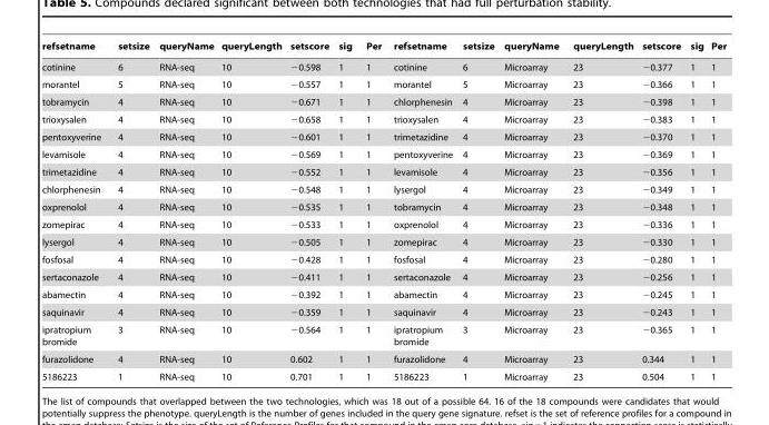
<table><thead><tr><td>refsetname</td><td>setsize</td><td>queryName</td><td>queryLength</td><td>setscore</td><td>sig</td><td>Per</td><td>refsetname</td><td>setsize</td><td>queryName</td><td>queryLength</td><td>setscore</td><td>sig</td><td>Per</td></tr></thead><tbody><tr><td>cotinine</td><td>6</td><td>RNA-seq</td><td>10</td><td>−0.598</td><td>1</td><td>1</td><td>cotinine</td><td>6</td><td>Microarray</td><td>23</td><td>−0.377</td><td>1</td><td>1</td></tr><tr><td>morantel</td><td>5</td><td>RNA-seq</td><td>10</td><td>−0.557</td><td>1</td><td>1</td><td>morantel</td><td>5</td><td>Microarray</td><td>23</td><td>−0.366</td><td>1</td><td>1</td></tr><tr><td>tobramycin</td><td>4</td><td>RNA-seq</td><td>10</td><td>−0.671</td><td>1</td><td>1</td><td>chlorphenesin</td><td>4</td><td>Microarray</td><td>23</td><td>−0.398</td><td>1</td><td>1</td></tr><tr><td>trioxysalen</td><td>4</td><td>RNA-seq</td><td>10</td><td>−0.658</td><td>1</td><td>1</td><td>trioxysalen</td><td>4</td><td>Microarray</td><td>23</td><td>−0.383</td><td>1</td><td>1</td></tr><tr><td>pentoxyverine</td><td>4</td><td>RNA-seq</td><td>10</td><td>−0.601</td><td>1</td><td>1</td><td>trimetazidine</td><td>4</td><td>Microarray</td><td>23</td><td>−0.370</td><td>1</td><td>1</td></tr><tr><td>levamisole</td><td>4</td><td>RNA-seq</td><td>10</td><td>−0.569</td><td>1</td><td>1</td><td>pentoxyverine</td><td>4</td><td>Microarray</td><td>23</td><td>−0.369</td><td>1</td><td>1</td></tr><tr><td>trimetazidine</td><td>4</td><td>RNA-seq</td><td>10</td><td>−0.552</td><td>1</td><td>1</td><td>levamisole</td><td>4</td><td>Microarray</td><td>23</td><td>−0.356</td><td>1</td><td>1</td></tr><tr><td>chlorphenesin</td><td>4</td><td>RNA-seq</td><td>10</td><td>−0.548</td><td>1</td><td>1</td><td>lysergol</td><td>4</td><td>Microarray</td><td>23</td><td>−0.349</td><td>1</td><td>1</td></tr><tr><td>oxprenolol</td><td>4</td><td>RNA-seq</td><td>10</td><td>−0.535</td><td>1</td><td>1</td><td>tobramycin</td><td>4</td><td>Microarray</td><td>23</td><td>−0.348</td><td>1</td><td>1</td></tr><tr><td>zomepirac</td><td>4</td><td>RNA-seq</td><td>10</td><td>−0.533</td><td>1</td><td>1</td><td>oxprenolol</td><td>4</td><td>Microarray</td><td>23</td><td>−0.336</td><td>1</td><td>1</td></tr><tr><td>lysergol</td><td>4</td><td>RNA-seq</td><td>10</td><td>−0.505</td><td>1</td><td>1</td><td>zomepirac</td><td>4</td><td>Microarray</td><td>23</td><td>−0.330</td><td>1</td><td>1</td></tr><tr><td>fosfosal</td><td>4</td><td>RNA-seq</td><td>10</td><td>−0.428</td><td>1</td><td>1</td><td>fosfosal</td><td>4</td><td>Microarray</td><td>23</td><td>−0.280</td><td>1</td><td>1</td></tr><tr><td>sertaconazole</td><td>4</td><td>RNA-seq</td><td>10</td><td>−0.411</td><td>1</td><td>1</td><td>sertaconazole</td><td>4</td><td>Microarray</td><td>23</td><td>−0.256</td><td>1</td><td>1</td></tr><tr><td>abamectin</td><td>4</td><td>RNA-seq</td><td>10</td><td>−0.392</td><td>1</td><td>1</td><td>abamectin</td><td>4</td><td>Microarray</td><td>23</td><td>−0.245</td><td>1</td><td>1</td></tr><tr><td>saquinavir</td><td>4</td><td>RNA-seq</td><td>10</td><td>−0.359</td><td>1</td><td>1</td><td>saquinavir</td><td>4</td><td>Microarray</td><td>23</td><td>−0.243</td><td>1</td><td>1</td></tr><tr><td>ipratropium bromide</td><td>3</td><td>RNA-seq</td><td>10</td><td>−0.564</td><td>1</td><td>1</td><td>ipratropium bromide</td><td>3</td><td>Microarray</td><td>23</td><td>−0.365</td><td>1</td><td>1</td></tr><tr><td>furazolidone</td><td>4</td><td>RNA-seq</td><td>10</td><td>0.602</td><td>1</td><td>1</td><td>furazolidone</td><td>4</td><td>Microarray</td><td>23</td><td>0.344</td><td>1</td><td>1</td></tr><tr><td>5186223</td><td>1</td><td>RNA-seq</td><td>10</td><td>0.701</td><td>1</td><td>1</td><td>5186223</td><td>1</td><td>Microarray</td><td>23</td><td>0.504</td><td>1</td><td>1</td></tr></tbody></table>